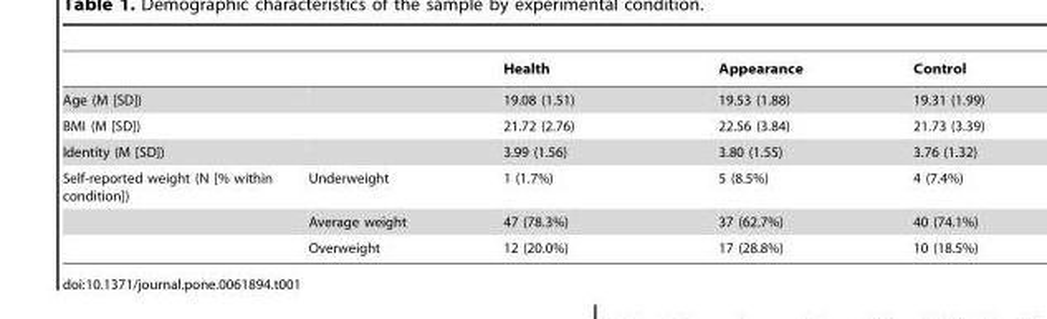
<table><thead><tr><td></td><td></td><td>Health</td><td>Appearance</td><td>Control</td></tr></thead><tbody><tr><td>Age (M [SD])</td><td></td><td>19.08 (1.51)</td><td>19.53 (1.88)</td><td>19.31 (1.99)</td></tr><tr><td>BMI (M [SD])</td><td></td><td>21.72 (2.76)</td><td>22.56 (3.84)</td><td>21.73 (3.39)</td></tr><tr><td>Identity (M [SD])</td><td></td><td>3.99 (1.56)</td><td>3.80 (1.55)</td><td>3.76 (1.32)</td></tr><tr><td rowspan="3">Self-reported weight (N [% within condition])</td><td>Underweight</td><td>1 (1.7%)</td><td>5 (8.5%)</td><td>4 (7.4%)</td></tr><tr><td>Average weight</td><td>47 (78.3%)</td><td>37 (62.7%)</td><td>40 (74.1%)</td></tr><tr><td>Overweight</td><td>12 (20.0%)</td><td>17 (28.8%)</td><td>10 (18.5%)</td></tr></tbody></table>